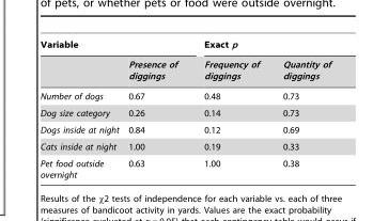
<table><thead><tr><td colspan="2">Variable</td><td colspan="2">Exact p</td></tr><tr><td></td><td>Presence of diggings</td><td>Frequency of diggings</td><td>Quantity of diggings</td></tr></thead><tbody><tr><td>Number of dogs</td><td>0.67</td><td>0.48</td><td>0.73</td></tr><tr><td>Dog size category</td><td>0.26</td><td>0.14</td><td>0.73</td></tr><tr><td>Dogs inside at night</td><td>0.84</td><td>0.12</td><td>0.69</td></tr><tr><td>Cats inside at night</td><td>1.00</td><td>0.19</td><td>0.33</td></tr><tr><td>Pet food outside overnight</td><td>0.63</td><td>1.00</td><td>0.38</td></tr></tbody></table>